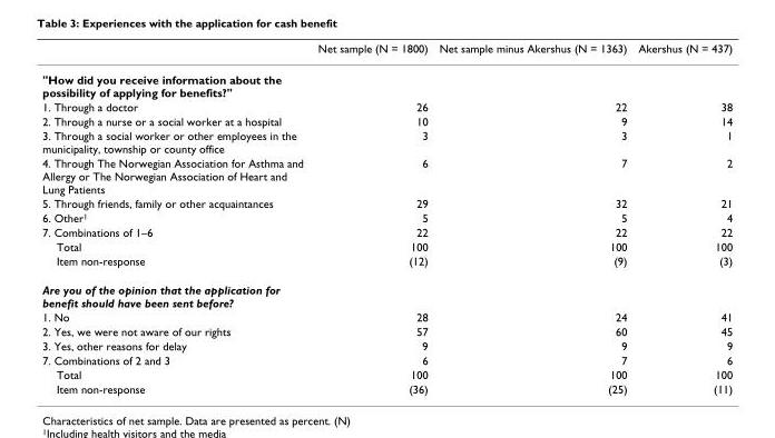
<table><thead><tr><td></td><td>Net sample (N = 1800)</td><td>Net sample minus Akershus (N = 1363)</td><td>Akershus (N = 437)</td></tr></thead><tbody><tr><td colspan="4">&quot;How did you receive information about the possibility of applying for benefits?&quot;</td></tr><tr><td>1. Through a doctor</td><td>26</td><td>22</td><td>38</td></tr><tr><td>2. Through a nurse or a social worker at a hospital</td><td>10</td><td>9</td><td>14</td></tr><tr><td>3. Through a social worker or other employees in the municipality, township or county office</td><td>3</td><td>3</td><td>1</td></tr><tr><td>4. Through The Norwegian Association for Asthma and Allergy or The Norwegian Association of Heart and Lung Patients</td><td>6</td><td>7</td><td>2</td></tr><tr><td>5. Through friends, family or other acquaintances</td><td>29</td><td>32</td><td>21</td></tr><tr><td>6. Other<sup>1</sup></td><td>5</td><td>5</td><td>4</td></tr><tr><td>7. Combinations of 1–6</td><td>22</td><td>22</td><td>22</td></tr><tr><td>Total</td><td>100</td><td>100</td><td>100</td></tr><tr><td>Item non-response</td><td>(12)</td><td>(9)</td><td>(3)</td></tr><tr><td colspan="4">Are you of the opinion that the application for benefit should have been sent before?</td></tr><tr><td>1. No</td><td>28</td><td>24</td><td>41</td></tr><tr><td>2. Yes, we were not aware of our rights</td><td>57</td><td>60</td><td>45</td></tr><tr><td>3. Yes, other reasons for delay</td><td>9</td><td>9</td><td>9</td></tr><tr><td>7. Combinations of 2 and 3</td><td>6</td><td>7</td><td>6</td></tr><tr><td>Total</td><td>100</td><td>100</td><td>100</td></tr><tr><td>Item non-response</td><td>(36)</td><td>(25)</td><td>(11)</td></tr></tbody></table>